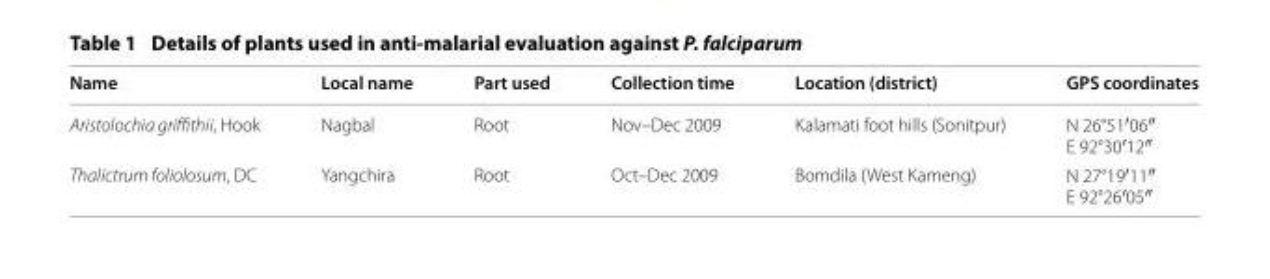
<table><thead><tr><td>Name</td><td>Local name</td><td>Part used</td><td>Collection time</td><td>Location (district)</td><td>GPS coordinates</td></tr></thead><tbody><tr><td>Aristolochia griffithii, Hook</td><td>Nagbal</td><td>Root</td><td>Nov–Dec 2009</td><td>Kalamati foot hills (Sonitpur)</td><td>N 26°51′06″ E 92°30′12″</td></tr><tr><td>Thalictrum foliolosum, DC</td><td>Yangchira</td><td>Root</td><td>Oct–Dec 2009</td><td>Bomdila (West Kameng)</td><td>N 27°19′11″ E 92°26′05″</td></tr></tbody></table>